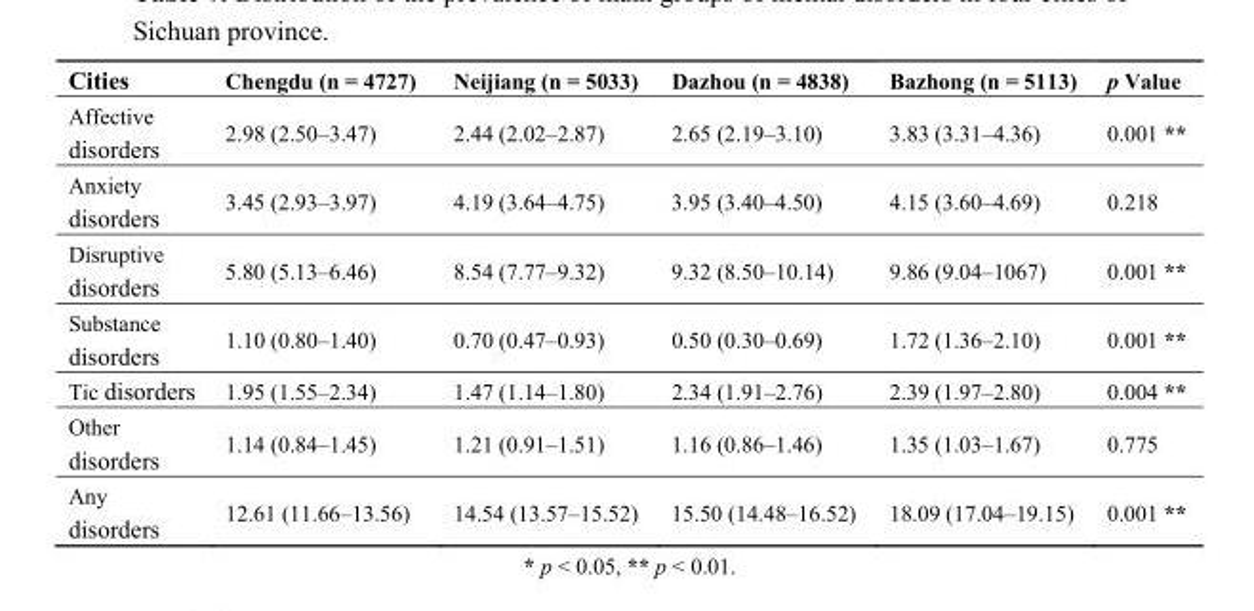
<table><thead><tr><td>Cities</td><td>Chengdu (n = 4727)</td><td>Neijiang (n = 5033)</td><td>Dazhou (n = 4838)</td><td>Bazhong (n = 5113)</td><td>p Value</td></tr></thead><tbody><tr><td>Affective disorders</td><td>2.98 (2.50–3.47)</td><td>2.44 (2.02–2.87)</td><td>2.65 (2.19–3.10)</td><td>3.83 (3.31–4.36)</td><td>0.001 **</td></tr><tr><td>Anxiety disorders</td><td>3.45 (2.93–3.97)</td><td>4.19 (3.64–4.75)</td><td>3.95 (3.40–4.50)</td><td>4.15 (3.60–4.69)</td><td>0.218</td></tr><tr><td>Disruptive disorders</td><td>5.80 (5.13–6.46)</td><td>8.54 (7.77–9.32)</td><td>9.32 (8.50–10.14)</td><td>9.86 (9.04–1067)</td><td>0.001 **</td></tr><tr><td>Substance disorders</td><td>1.10 (0.80–1.40)</td><td>0.70 (0.47–0.93)</td><td>0.50 (0.30–0.69)</td><td>1.72 (1.36–2.10)</td><td>0.001 **</td></tr><tr><td>Tic disorders</td><td>1.95 (1.55–2.34)</td><td>1.47 (1.14–1.80)</td><td>2.34 (1.91–2.76)</td><td>2.39 (1.97–2.80)</td><td>0.004 **</td></tr><tr><td>Other disorders</td><td>1.14 (0.84–1.45)</td><td>1.21 (0.91–1.51)</td><td>1.16 (0.86–1.46)</td><td>1.35 (1.03–1.67)</td><td>0.775</td></tr><tr><td>Any disorders</td><td>12.61 (11.66–13.56)</td><td>14.54 (13.57–15.52)</td><td>15.50 (14.48–16.52)</td><td>18.09 (17.04–19.15)</td><td>0.001 **</td></tr></tbody></table>